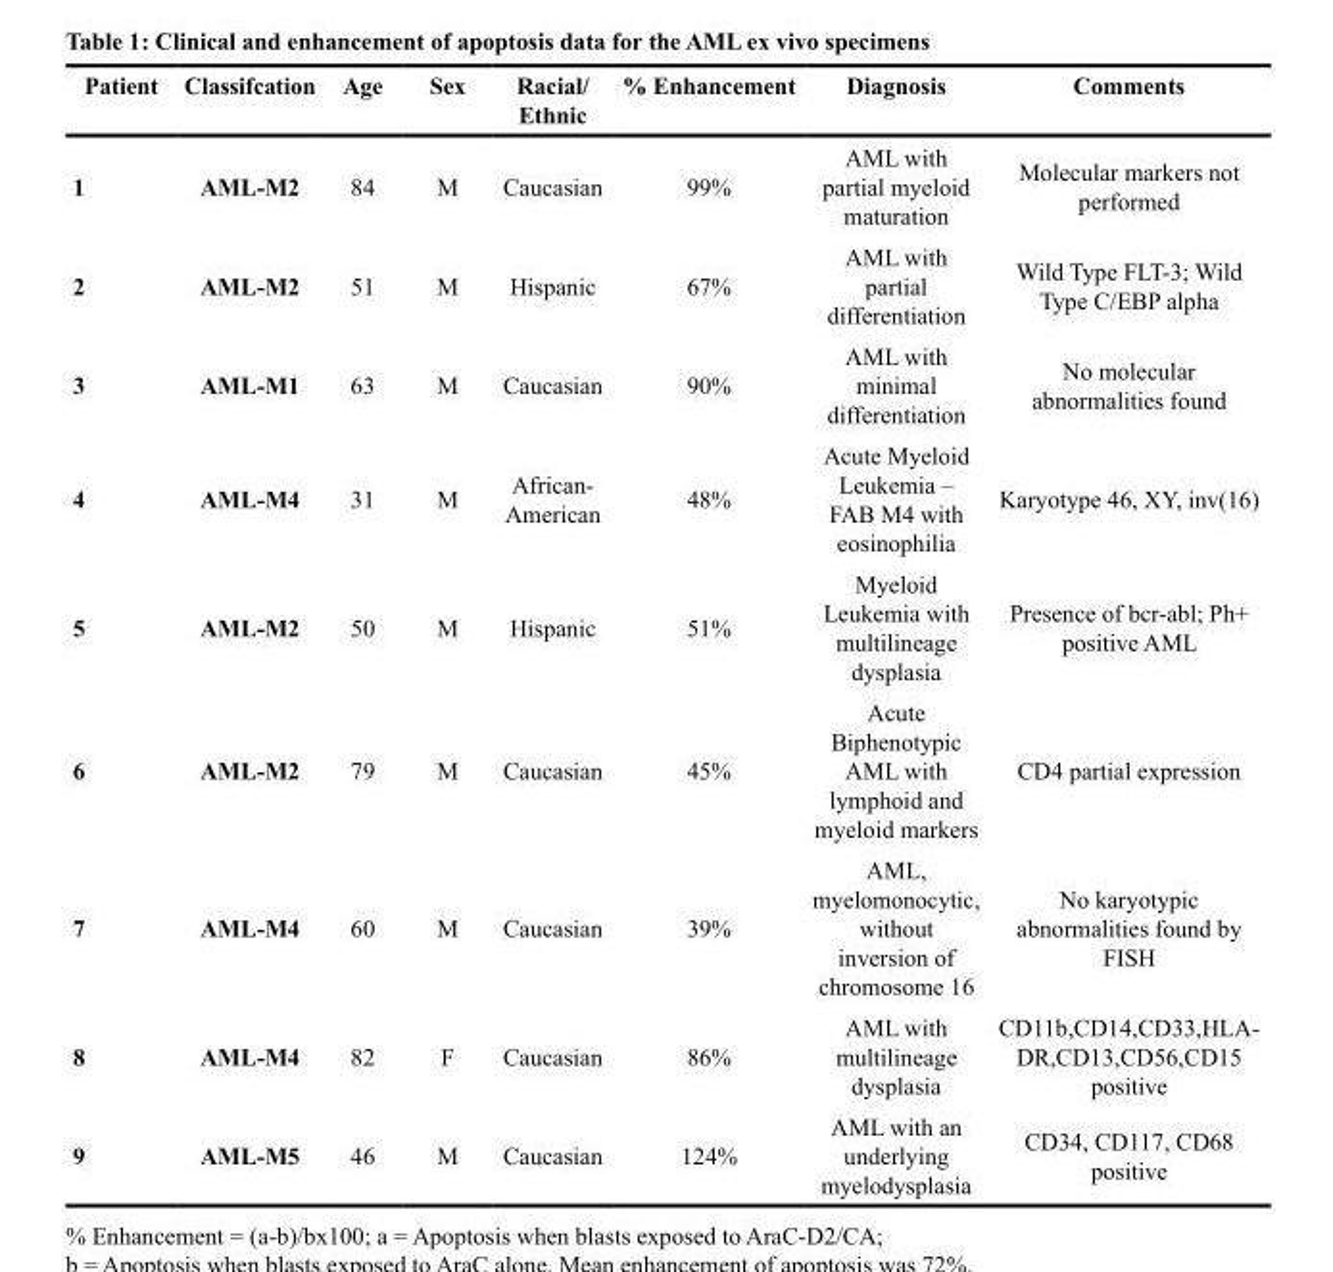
<table><thead><tr><td>Patient</td><td>Classifcation</td><td>Age</td><td>Sex</td><td>Racial/ Ethnic</td><td>% Enhancement</td><td>Diagnosis</td><td>Comments</td></tr></thead><tbody><tr><td>1</td><td>AML-M2</td><td>84</td><td>M</td><td>Caucasian</td><td>99%</td><td>AML with partial myeloid maturation</td><td>Molecular markers not performed</td></tr><tr><td>2</td><td>AML-M2</td><td>51</td><td>M</td><td>Hispanic</td><td>67%</td><td>AML with partial differentiation</td><td>Wild Type FLT-3; Wild Type C/EBP alpha</td></tr><tr><td>3</td><td>AML-M1</td><td>63</td><td>M</td><td>Caucasian</td><td>90%</td><td>AML with minimal differentiation</td><td>No molecular abnormalities found</td></tr><tr><td>4</td><td>AML-M4</td><td>31</td><td>M</td><td>African- American</td><td>48%</td><td>Acute Myeloid Leukemia – FAB M4 with eosinophilia</td><td>Karyotype 46, XY, inv(16)</td></tr><tr><td>5</td><td>AML-M2</td><td>50</td><td>M</td><td>Hispanic</td><td>51%</td><td>Myeloid Leukemia with multilineage dysplasia</td><td>Presence of bcr-abl; Ph+ positive AML</td></tr><tr><td>6</td><td>AML-M2</td><td>79</td><td>M</td><td>Caucasian</td><td>45%</td><td>Acute Biphenotypic AML with lymphoid and myeloid markers</td><td>CD4 partial expression</td></tr><tr><td>7</td><td>AML-M4</td><td>60</td><td>M</td><td>Caucasian</td><td>39%</td><td>AML, myelomonocytic, without inversion of chromosome 16</td><td>No karyotypic abnormalities found by FISH</td></tr><tr><td>8</td><td>AML-M4</td><td>82</td><td>F</td><td>Caucasian</td><td>86%</td><td>AML with multilineage dysplasia</td><td>CD11b,CD14,CD33,HLA- DR,CD13,CD56,CD15 positive</td></tr><tr><td>9</td><td>AML-M5</td><td>46</td><td>M</td><td>Caucasian</td><td>124%</td><td>AML with an underlying myelodysplasia</td><td>CD34, CD117, CD68 positive</td></tr></tbody></table>